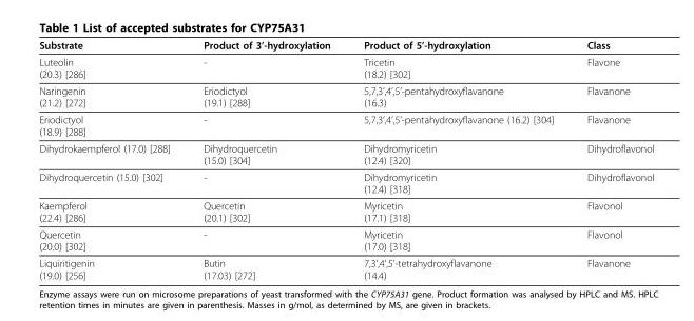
<table><thead><tr><td>Substrate</td><td>Product of 3’-hydroxylation</td><td>Product of 5’-hydroxylation</td><td>Class</td></tr></thead><tbody><tr><td>Luteolin (20.3) [286]</td><td>-</td><td>Tricetin (18.2) [302]</td><td>Flavone</td></tr><tr><td>Naringenin (21.2) [272]</td><td>Eriodictyol (19.1) [288]</td><td>5,7,3’,4’,5’-pentahydroxyflavanone (16.3)</td><td>Flavanone</td></tr><tr><td>Eriodictyol (18.9) [288]</td><td>-</td><td>5,7,3’,4’,5’-pentahydroxyflavanone (16.2) [304]</td><td>Flavanone</td></tr><tr><td>Dihydrokaempferol (17.0) [288]</td><td>Dihydroquercetin (15.0) [304]</td><td>Dihydromyricetin (12.4) [320]</td><td>Dihydroflavonol</td></tr><tr><td>Dihydroquercetin (15.0) [302]</td><td>-</td><td>Dihydromyricetin (12.4) [318]</td><td>Dihydroflavonol</td></tr><tr><td>Kaempferol (22.4) [286]</td><td>Quercetin (20.1) [302]</td><td>Myricetin (17.1) [318]</td><td>Flavonol</td></tr><tr><td>Quercetin (20.0) [302]</td><td>-</td><td>Myricetin (17.0) [318]</td><td>Flavonol</td></tr><tr><td>Liquiritigenin (19.0) [256]</td><td>Butin (17.03) [272]</td><td>7,3’,4’,5’-tetrahydroxyflavanone (14.4)</td><td>Flavanone</td></tr></tbody></table>